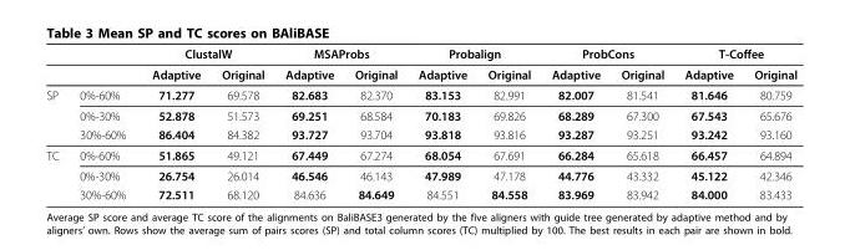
<table><thead><tr><td rowspan="2"></td><td rowspan="2"></td><td colspan="2">ClustalW</td><td colspan="2">MSAProbs</td><td colspan="2">Probalign</td><td colspan="2">ProbCons</td><td colspan="2">T-Coffee</td></tr><tr><td>Adaptive</td><td>Original</td><td>Adaptive</td><td>Original</td><td>Adaptive</td><td>Original</td><td>Adaptive</td><td>Original</td><td>Adaptive</td><td>Original</td></tr></thead><tbody><tr><td rowspan="3">SP</td><td>0%-60%</td><td>71.277</td><td>69.578</td><td>82.683</td><td>82.370</td><td>83.153</td><td>82.991</td><td>82.007</td><td>81.541</td><td>81.646</td><td>80.759</td></tr><tr><td>0%-30%</td><td>52.878</td><td>51.573</td><td>69.251</td><td>68.584</td><td>70.183</td><td>69.826</td><td>68.289</td><td>67.300</td><td>67.543</td><td>65.676</td></tr><tr><td>30%-60%</td><td>86.404</td><td>84.382</td><td>93.727</td><td>93.704</td><td>93.818</td><td>93.816</td><td>93.287</td><td>93.251</td><td>93.242</td><td>93.160</td></tr><tr><td rowspan="3">TC</td><td>0%-60%</td><td>51.865</td><td>49.121</td><td>67.449</td><td>67.274</td><td>68.054</td><td>67.691</td><td>66.284</td><td>65.618</td><td>66.457</td><td>64.894</td></tr><tr><td>0%-30%</td><td>26.754</td><td>26.014</td><td>46.546</td><td>46.143</td><td>47.989</td><td>47.178</td><td>44.776</td><td>43.332</td><td>45.122</td><td>42.346</td></tr><tr><td>30%-60%</td><td>72.511</td><td>68.120</td><td>84.636</td><td>84.649</td><td>84.551</td><td>84.558</td><td>83.969</td><td>83.942</td><td>84.000</td><td>83.433</td></tr></tbody></table>